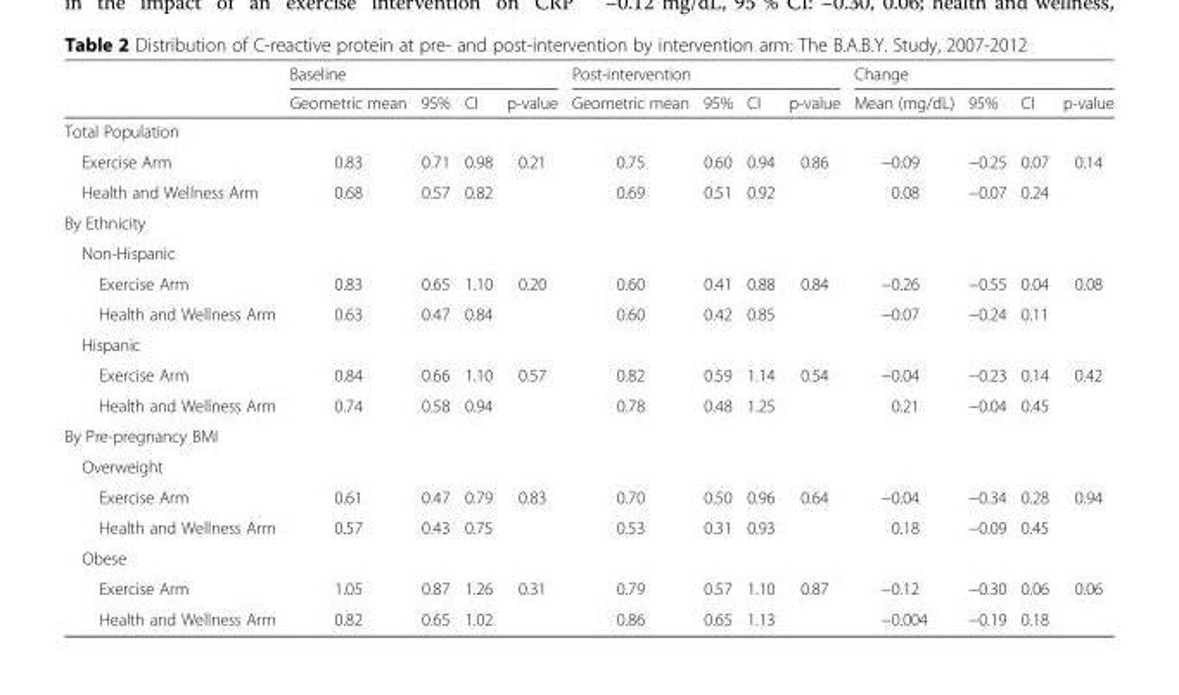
<table><thead><tr><td rowspan="2"></td><td colspan="4">Baseline</td><td colspan="4">Post-intervention</td><td colspan="4">Change</td></tr><tr><td>Geometric mean</td><td>95%</td><td>CI</td><td>p-value</td><td>Geometric mean</td><td>95%</td><td>CI</td><td>p-value</td><td>Mean (mg/dL)</td><td>95%</td><td>CI</td><td>p-value</td></tr></thead><tbody><tr><td colspan="13">Total Population</td></tr><tr><td>Exercise Arm</td><td>0.83</td><td>0.71</td><td>0.98</td><td>0.21</td><td>0.75</td><td>0.60</td><td>0.94</td><td>0.86</td><td>−0.09</td><td>−0.25</td><td>0.07</td><td>0.14</td></tr><tr><td>Health and Wellness Arm</td><td>0.68</td><td>0.57</td><td>0.82</td><td></td><td>0.69</td><td>0.51</td><td>0.92</td><td></td><td>0.08</td><td>−0.07</td><td>0.24</td><td></td></tr><tr><td colspan="13">By Ethnicity</td></tr><tr><td colspan="13">Non-Hispanic</td></tr><tr><td>Exercise Arm</td><td>0.83</td><td>0.65</td><td>1.10</td><td>0.20</td><td>0.60</td><td>0.41</td><td>0.88</td><td>0.84</td><td>−0.26</td><td>−0.55</td><td>0.04</td><td>0.08</td></tr><tr><td>Health and Wellness Arm</td><td>0.63</td><td>0.47</td><td>0.84</td><td></td><td>0.60</td><td>0.42</td><td>0.85</td><td></td><td>−0.07</td><td>−0.24</td><td>0.11</td><td></td></tr><tr><td colspan="13">Hispanic</td></tr><tr><td>Exercise Arm</td><td>0.84</td><td>0.66</td><td>1.10</td><td>0.57</td><td>0.82</td><td>0.59</td><td>1.14</td><td>0.54</td><td>−0.04</td><td>−0.23</td><td>0.14</td><td>0.42</td></tr><tr><td>Health and Wellness Arm</td><td>0.74</td><td>0.58</td><td>0.94</td><td></td><td>0.78</td><td>0.48</td><td>1.25</td><td></td><td>0.21</td><td>−0.04</td><td>0.45</td><td></td></tr><tr><td colspan="13">By Pre-pregnancy BMI</td></tr><tr><td colspan="13">Overweight</td></tr><tr><td>Exercise Arm</td><td>0.61</td><td>0.47</td><td>0.79</td><td>0.83</td><td>0.70</td><td>0.50</td><td>0.96</td><td>0.64</td><td>−0.04</td><td>−0.34</td><td>0.28</td><td>0.94</td></tr><tr><td>Health and Wellness Arm</td><td>0.57</td><td>0.43</td><td>0.75</td><td></td><td>0.53</td><td>0.31</td><td>0.93</td><td></td><td>0.18</td><td>−0.09</td><td>0.45</td><td></td></tr><tr><td colspan="13">Obese</td></tr><tr><td>Exercise Arm</td><td>1.05</td><td>0.87</td><td>1.26</td><td>0.31</td><td>0.79</td><td>0.57</td><td>1.10</td><td>0.87</td><td>−0.12</td><td>−0.30</td><td>0.06</td><td>0.06</td></tr><tr><td>Health and Wellness Arm</td><td>0.82</td><td>0.65</td><td>1.02</td><td></td><td>0.86</td><td>0.65</td><td>1.13</td><td></td><td>−0.004</td><td>−0.19</td><td>0.18</td><td></td></tr></tbody></table>